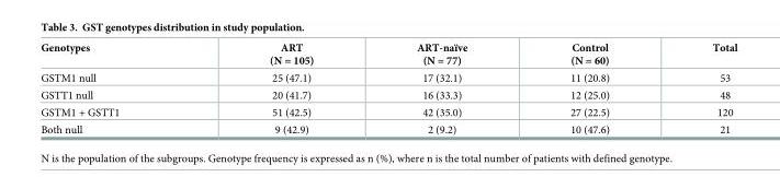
<table><thead><tr><td>Genotypes</td><td>ART (N = 105)</td><td>ART-naïve (N = 77)</td><td>Control (N = 60)</td><td>Total</td></tr></thead><tbody><tr><td>GSTM1 null</td><td>25 (47.1)</td><td>17 (32.1)</td><td>11 (20.8)</td><td>53</td></tr><tr><td>GSTT1 null</td><td>20 (41.7)</td><td>16 (33.3)</td><td>12 (25.0)</td><td>48</td></tr><tr><td>GSTM1 + GSTT1</td><td>51 (42.5)</td><td>42 (35.0)</td><td>27 (22.5)</td><td>120</td></tr><tr><td>Both null</td><td>9 (42.9)</td><td>2 (9.2)</td><td>10 (47.6)</td><td>21</td></tr></tbody></table>